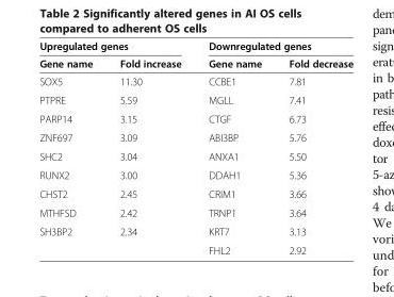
<table><thead><tr><td colspan="2">Upregulated genes</td><td colspan="2">Downregulated genes</td></tr><tr><td>Gene name</td><td>Fold increase</td><td>Gene name</td><td>Fold decrease</td></tr></thead><tbody><tr><td>SOX5</td><td>11.30</td><td>CCBE1</td><td>7.81</td></tr><tr><td>PTPRE</td><td>5.59</td><td>MGLL</td><td>7.41</td></tr><tr><td>PARP14</td><td>3.15</td><td>CTGF</td><td>6.73</td></tr><tr><td>ZNF697</td><td>3.09</td><td>ABI3BP</td><td>5.76</td></tr><tr><td>SHC2</td><td>3.04</td><td>ANXA1</td><td>5.50</td></tr><tr><td>RUNX2</td><td>3.00</td><td>DDAH1</td><td>5.36</td></tr><tr><td>CHST2</td><td>2.45</td><td>CRIM1</td><td>3.66</td></tr><tr><td>MTHFSD</td><td>2.42</td><td>TRNP1</td><td>3.64</td></tr><tr><td rowspan="2">SH3BP2</td><td>2.34</td><td>KRT7</td><td>3.13</td></tr><tr><td></td><td>FHL2</td><td>2.92</td></tr></tbody></table>